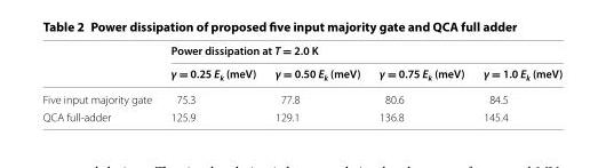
<table><thead><tr><td rowspan="2"></td><td colspan="4">Power dissipation at T = 2.0 K</td></tr><tr><td>γ = 0.25 E<sub>k</sub> (meV)</td><td>γ = 0.50 E<sub>k</sub> (meV)</td><td>γ = 0.75 E<sub>k</sub> (meV)</td><td>γ = 1.0 E<sub>k</sub> (meV)</td></tr></thead><tbody><tr><td>Five input majority gate</td><td>75.3</td><td>77.8</td><td>80.6</td><td>84.5</td></tr><tr><td>QCA full-adder</td><td>125.9</td><td>129.1</td><td>136.8</td><td>145.4</td></tr></tbody></table>